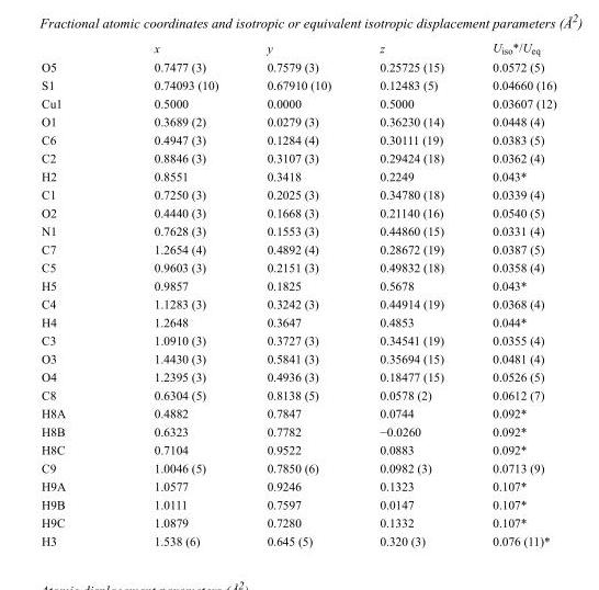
<table><thead><tr><td></td><td>x</td><td>y</td><td>z</td><td>U<sub>iso</sub>*/U<sub>eq</sub></td></tr></thead><tbody><tr><td>O5</td><td>0.7477 (3)</td><td>0.7579 (3)</td><td>0.25725 (15)</td><td>0.0572 (5)</td></tr><tr><td>S1</td><td>0.74093 (10)</td><td>0.67910 (10)</td><td>0.12483 (5)</td><td>0.04660 (16)</td></tr><tr><td>Cu1</td><td>0.5000</td><td>0.0000</td><td>0.5000</td><td>0.03607 (12)</td></tr><tr><td>O1</td><td>0.3689 (2)</td><td>0.0279 (3)</td><td>0.36230 (14)</td><td>0.0448 (4)</td></tr><tr><td>C6</td><td>0.4947 (3)</td><td>0.1284 (4)</td><td>0.30111 (19)</td><td>0.0383 (5)</td></tr><tr><td>C2</td><td>0.8846 (3)</td><td>0.3107 (3)</td><td>0.29424 (18)</td><td>0.0362 (4)</td></tr><tr><td>H2</td><td>0.8551</td><td>0.3418</td><td>0.2249</td><td>0.043*</td></tr><tr><td>C1</td><td>0.7250 (3)</td><td>0.2025 (3)</td><td>0.34780 (18)</td><td>0.0339 (4)</td></tr><tr><td>O2</td><td>0.4440 (3)</td><td>0.1668 (3)</td><td>0.21140 (16)</td><td>0.0540 (5)</td></tr><tr><td>N1</td><td>0.7628 (3)</td><td>0.1553 (3)</td><td>0.44860 (15)</td><td>0.0331 (4)</td></tr><tr><td>C7</td><td>1.2654 (4)</td><td>0.4892 (4)</td><td>0.28672 (19)</td><td>0.0387 (5)</td></tr><tr><td>C5</td><td>0.9603 (3)</td><td>0.2151 (3)</td><td>0.49832 (18)</td><td>0.0358 (4)</td></tr><tr><td>H5</td><td>0.9857</td><td>0.1825</td><td>0.5678</td><td>0.043*</td></tr><tr><td>C4</td><td>1.1283 (3)</td><td>0.3242 (3)</td><td>0.44914 (19)</td><td>0.0368 (4)</td></tr><tr><td>H4</td><td>1.2648</td><td>0.3647</td><td>0.4853</td><td>0.044*</td></tr><tr><td>C3</td><td>1.0910 (3)</td><td>0.3727 (3)</td><td>0.34541 (19)</td><td>0.0355 (4)</td></tr><tr><td>O3</td><td>1.4430 (3)</td><td>0.5841 (3)</td><td>0.35694 (15)</td><td>0.0481 (4)</td></tr><tr><td>O4</td><td>1.2395 (3)</td><td>0.4936 (3)</td><td>0.18477 (15)</td><td>0.0526 (5)</td></tr><tr><td>C8</td><td>0.6304 (5)</td><td>0.8138 (5)</td><td>0.0578 (2)</td><td>0.0612 (7)</td></tr><tr><td>H8A</td><td>0.4882</td><td>0.7847</td><td>0.0744</td><td>0.092*</td></tr><tr><td>H8B</td><td>0.6323</td><td>0.7782</td><td>−0.0260</td><td>0.092*</td></tr><tr><td>H8C</td><td>0.7104</td><td>0.9522</td><td>0.0883</td><td>0.092*</td></tr><tr><td>C9</td><td>1.0046 (5)</td><td>0.7850 (6)</td><td>0.0982 (3)</td><td>0.0713 (9)</td></tr><tr><td>H9A</td><td>1.0577</td><td>0.9246</td><td>0.1323</td><td>0.107*</td></tr><tr><td>H9B</td><td>1.0111</td><td>0.7597</td><td>0.0147</td><td>0.107*</td></tr><tr><td>H9C</td><td>1.0879</td><td>0.7280</td><td>0.1332</td><td>0.107*</td></tr><tr><td>H3</td><td>1.538 (6)</td><td>0.645 (5)</td><td>0.320 (3)</td><td>0.076 (11)*</td></tr></tbody></table>